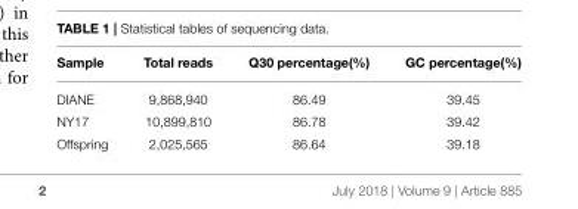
<table><thead><tr><td>Sample</td><td>Total reads</td><td>Q30 percentage(%)</td><td>GC percentage(%)</td></tr></thead><tbody><tr><td>DIANE</td><td>9,868,940</td><td>86.49</td><td>39.45</td></tr><tr><td>NY17</td><td>10,899,810</td><td>86.78</td><td>39.42</td></tr><tr><td>Offspring</td><td>2,025,565</td><td>86.64</td><td>39.18</td></tr></tbody></table>